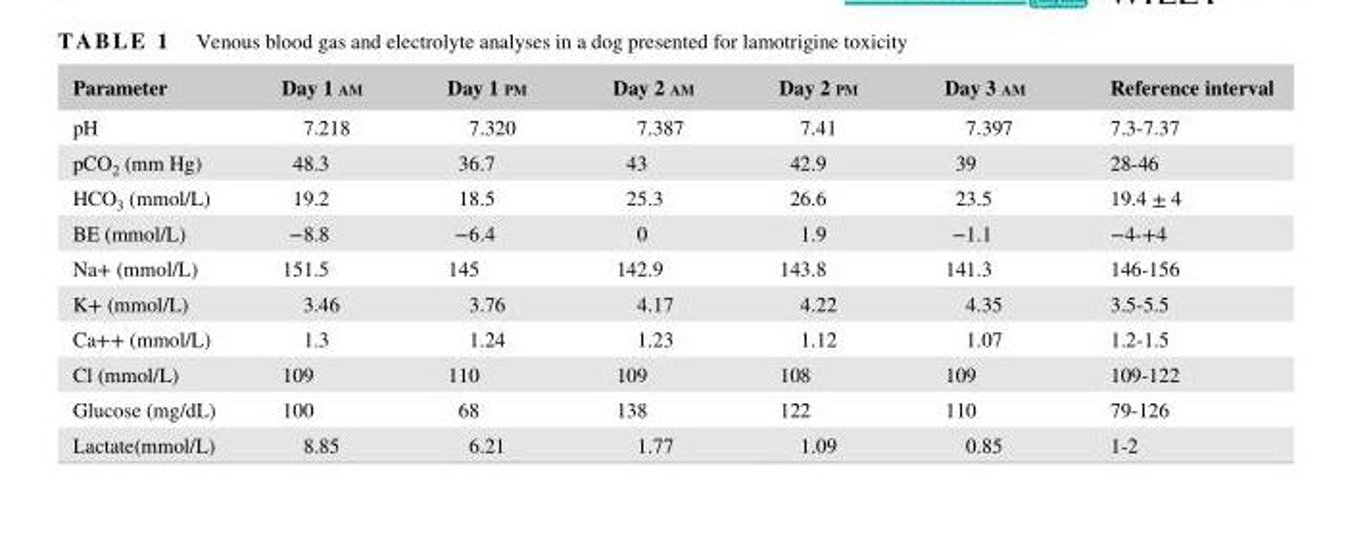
<table><thead><tr><td>Parameter</td><td>Day 1 am</td><td>Day 1 pm</td><td>Day 2 am</td><td>Day 2 pm</td><td>Day 3 am</td><td>Reference interval</td></tr></thead><tbody><tr><td>pH</td><td>7.218</td><td>7.320</td><td>7.387</td><td>7.41</td><td>7.397</td><td>7.3- 7.37</td></tr><tr><td>pCO<sub>2</sub> (mm Hg)</td><td>48.3</td><td>36.7</td><td>43</td><td>42.9</td><td>39</td><td>28- 46</td></tr><tr><td>HCO<sub>3</sub> (mmol/L)</td><td>19.2</td><td>18.5</td><td>25.3</td><td>26.6</td><td>23.5</td><td>19.4 ± 4</td></tr><tr><td>BE (mmol/L)</td><td>−8.8</td><td>−6.4</td><td>0</td><td>1.9</td><td>−1.1</td><td>−4- +4</td></tr><tr><td>Na+ (mmol/L)</td><td>151.5</td><td>145</td><td>142.9</td><td>143.8</td><td>141.3</td><td>146- 156</td></tr><tr><td>K+ (mmol/L)</td><td>3.46</td><td>3.76</td><td>4.17</td><td>4.22</td><td>4.35</td><td>3.5- 5.5</td></tr><tr><td>Ca++ (mmol/L)</td><td>1.3</td><td>1.24</td><td>1.23</td><td>1.12</td><td>1.07</td><td>1.2- 1.5</td></tr><tr><td>Cl (mmol/L)</td><td>109</td><td>110</td><td>109</td><td>108</td><td>109</td><td>109- 122</td></tr><tr><td>Glucose (mg/dL)</td><td>100</td><td>68</td><td>138</td><td>122</td><td>110</td><td>79- 126</td></tr><tr><td>Lactate(mmol/L)</td><td>8.85</td><td>6.21</td><td>1.77</td><td>1.09</td><td>0.85</td><td>1- 2</td></tr></tbody></table>